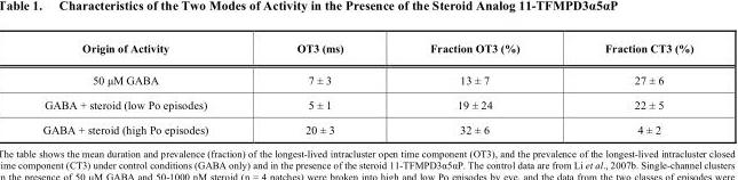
<table><thead><tr><td>Origin of Activity</td><td>OT3 (ms)</td><td>Fraction OT3 (%)</td><td>Fraction CT3 (%)</td></tr></thead><tbody><tr><td>50 µM GABA</td><td>7 ± 3</td><td>13 ± 7</td><td>27 ± 6</td></tr><tr><td>GABA + steroid (low Po episodes)</td><td>5 ± 1</td><td>19 ± 24</td><td>22 ± 5</td></tr><tr><td>GABA + steroid (high Po episodes)</td><td>20 ± 3</td><td>32 ± 6</td><td>4 ± 2</td></tr></tbody></table>